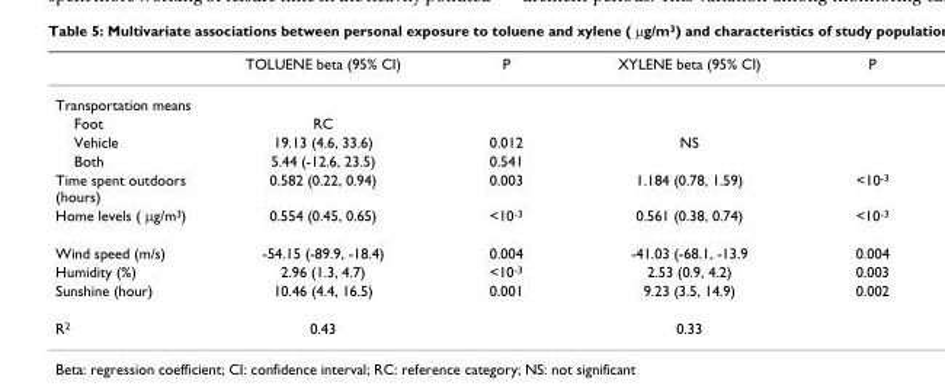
<table><thead><tr><td></td><td>TOLUENE beta (95% CI)</td><td>P</td><td>XYLENE beta (95% CI)</td><td>P</td></tr></thead><tbody><tr><td colspan="5">Transportation means</td></tr><tr><td>Foot</td><td>RC</td><td></td><td></td><td></td></tr><tr><td>Vehicle</td><td>19.13 (4.6, 33.6)</td><td>0.012</td><td>NS</td><td></td></tr><tr><td>Both</td><td>5.44 (-12.6, 23.5)</td><td>0.541</td><td></td><td></td></tr><tr><td>Time spent outdoors (hours)</td><td>0.582 (0.22, 0.94)</td><td>0.003</td><td>1.184 (0.78, 1.59)</td><td>&lt;10-3</td></tr><tr><td>Home levels ( µg/m3)</td><td>0.554 (0.45, 0.65)</td><td>&lt;10-3</td><td>0.561 (0.38, 0.74)</td><td>&lt;10-3</td></tr><tr><td>Wind speed (m/s)</td><td>-54.15 (-89.9, -18.4)</td><td>0.004</td><td>-41.03 (-68.1, -13.9</td><td>0.004</td></tr><tr><td>Humidity (%)</td><td>2.96 (1.3, 4.7)</td><td>&lt;10-3</td><td>2.53 (0.9, 4.2)</td><td>0.003</td></tr><tr><td>Sunshine (hour)</td><td>10.46 (4.4, 16.5)</td><td>0.001</td><td>9.23 (3.5, 14.9)</td><td>0.002</td></tr><tr><td>R2</td><td>0.43</td><td></td><td>0.33</td><td></td></tr></tbody></table>